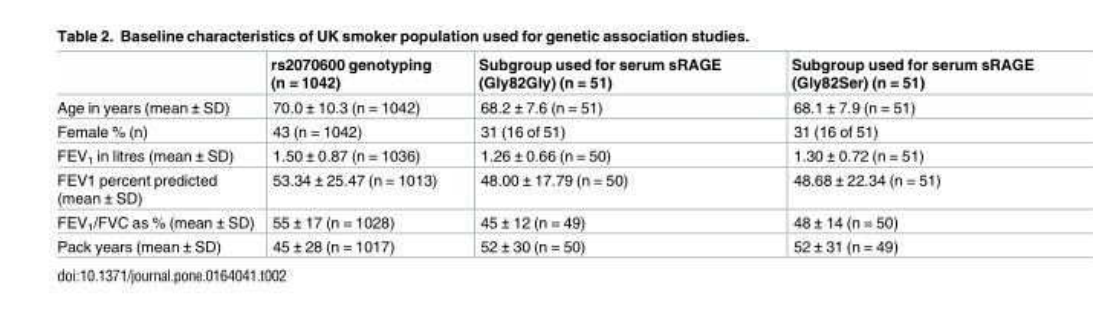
<table><thead><tr><td></td><td>rs2070600 genotyping (n = 1042)</td><td>Subgroup used for serum sRAGE (Gly82Gly) (n = 51)</td><td>Subgroup used for serum sRAGE (Gly82Ser) (n = 51)</td></tr></thead><tbody><tr><td>Age in years (mean ± SD)</td><td>70.0 ± 10.3 (n = 1042)</td><td>68.2 ± 7.6 (n = 51)</td><td>68.1 ± 7.9 (n = 51)</td></tr><tr><td>Female % (n)</td><td>43 (n = 1042)</td><td>31 (16 of 51)</td><td>31 (16 of 51)</td></tr><tr><td>FEV<sub>1</sub> in litres (mean ± SD)</td><td>1.50 ± 0.87 (n = 1036)</td><td>1.26 ± 0.66 (n = 50)</td><td>1.30 ± 0.72 (n = 51)</td></tr><tr><td>FEV1 percent predicted (mean ± SD)</td><td>53.34 ± 25.47 (n = 1013)</td><td>48.00 ± 17.79 (n = 50)</td><td>48.68 ± 22.34 (n = 51)</td></tr><tr><td>FEV<sub>1</sub>/FVC as % (mean ± SD)</td><td>55 ± 17 (n = 1028)</td><td>45 ± 12 (n = 49)</td><td>48 ± 14 (n = 50)</td></tr><tr><td>Pack years (mean ± SD)</td><td>45 ± 28 (n = 1017)</td><td>52 ± 30 (n = 50)</td><td>52 ± 31 (n = 49)</td></tr></tbody></table>